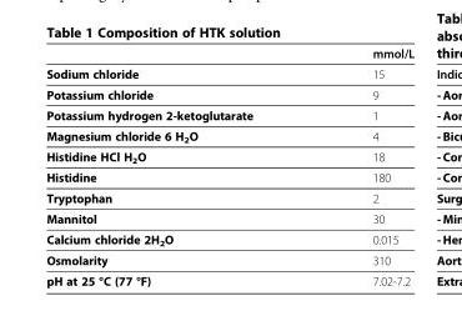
<table><thead><tr><td></td><td>mmol/L</td></tr></thead><tbody><tr><td>Sodium chloride</td><td>15</td></tr><tr><td>Potassium chloride</td><td>9</td></tr><tr><td>Potassium hydrogen 2-ketoglutarate</td><td>1</td></tr><tr><td>Magnesium chloride 6 H<sub>2</sub>O</td><td>4</td></tr><tr><td>Histidine HCl H<sub>2</sub>O</td><td>18</td></tr><tr><td>Histidine</td><td>180</td></tr><tr><td>Tryptophan</td><td>2</td></tr><tr><td>Mannitol</td><td>30</td></tr><tr><td>Calcium chloride 2H<sub>2</sub>O</td><td>0.015</td></tr><tr><td>Osmolarity</td><td>310</td></tr><tr><td>pH at 25 °C (77 °F)</td><td>7.02-7.2</td></tr></tbody></table>